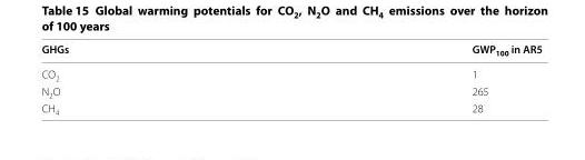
<table><thead><tr><td>GHGs</td><td>GWP<sub>100</sub> in AR5</td></tr></thead><tbody><tr><td>CO<sub>2</sub></td><td>1</td></tr><tr><td>N<sub>2</sub>O</td><td>265</td></tr><tr><td>CH<sub>4</sub></td><td>28</td></tr></tbody></table>